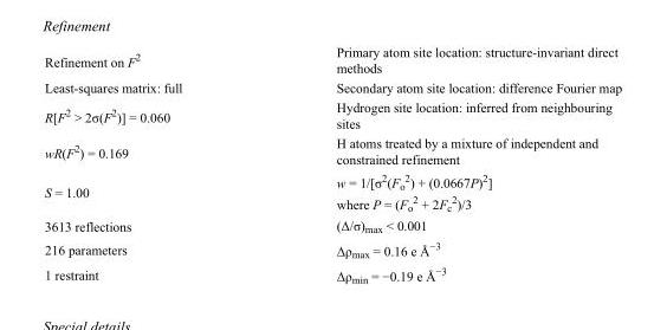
<table><tbody><tr><td>Refinement on F<sup>2</sup></td><td>Primary atom site location: structure-invariant direct methods</td></tr><tr><td>Least-squares matrix: full</td><td>Secondary atom site location: difference Fourier map</td></tr><tr><td>R[F<sup>2</sup> &gt; 2σ(F<sup>2</sup>)] = 0.060</td><td>Hydrogen site location: inferred from neighbouring sites</td></tr><tr><td>wR(F<sup>2</sup>) = 0.169</td><td>H atoms treated by a mixture of independent and constrained refinement</td></tr><tr><td>S = 1.00</td><td>w = 1/[σ<sup>2</sup>(F<sub>o</sub> <sup>2</sup>) + (0.0667P)<sup>2</sup>] where P = (F<sub>o</sub> <sup>2</sup> + 2F<sub>c</sub> <sup>2</sup>)/3</td></tr><tr><td>3613 reflections</td><td>(Δ/σ)<sub>max</sub> &lt; 0.001</td></tr><tr><td>216 parameters</td><td>Δρ<sub>max</sub> = 0.16 e Å<sup>−3</sup></td></tr><tr><td>1 restraint</td><td>Δρ<sub>min</sub> = −0.19 e Å<sup>−3</sup></td></tr></tbody></table>